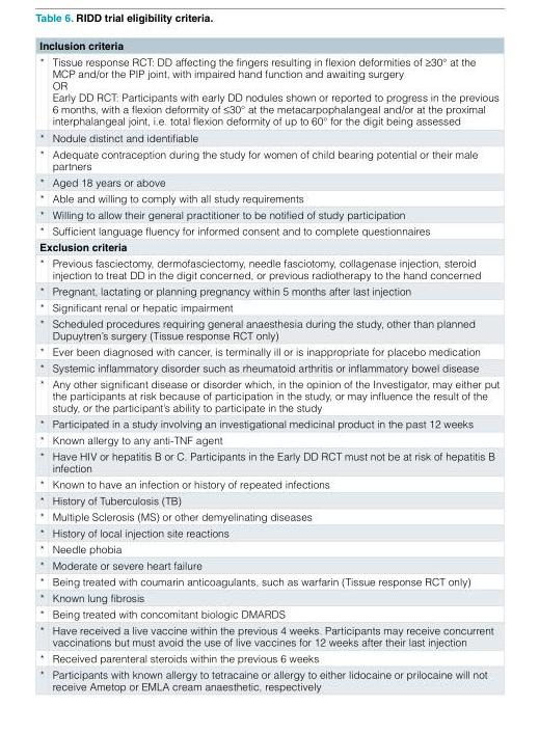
<table><thead><tr><td colspan="2">Inclusion criteria</td></tr><tr><td>*</td><td>Tissue response RCT: DD affecting the fingers resulting in flexion deformities of ≥30° at the MCP and/or the PIP joint, with impaired hand function and awaiting surgery OR Early DD RCT: Participants with early DD nodules shown or reported to progress in the previous 6 months, with a flexion deformity of ≤30° at the metacarpophalangeal and/or at the proximal interphalangeal joint, i.e. total flexion deformity of up to 60° for the digit being assessed</td></tr></thead><tbody><tr><td>*</td><td>Nodule distinct and identifiable</td></tr><tr><td>*</td><td>Adequate contraception during the study for women of child bearing potential or their male partners</td></tr><tr><td>*</td><td>Aged 18 years or above</td></tr><tr><td>*</td><td>Able and willing to comply with all study requirements</td></tr><tr><td>*</td><td>Willing to allow their general practitioner to be notified of study participation</td></tr><tr><td>*</td><td>Sufficient language fluency for informed consent and to complete questionnaires</td></tr><tr><td colspan="2">Exclusion criteria</td></tr><tr><td>*</td><td>Previous fasciectomy, dermofasciectomy, needle fasciotomy, collagenase injection, steroid injection to treat DD in the digit concerned, or previous radiotherapy to the hand concerned</td></tr><tr><td>*</td><td>Pregnant, lactating or planning pregnancy within 5 months after last injection</td></tr><tr><td>*</td><td>Significant renal or hepatic impairment</td></tr><tr><td>*</td><td>Scheduled procedures requiring general anaesthesia during the study, other than planned Dupuytren’s surgery (Tissue response RCT only)</td></tr><tr><td>*</td><td>Ever been diagnosed with cancer, is terminally ill or is inappropriate for placebo medication</td></tr><tr><td>*</td><td>Systemic inflammatory disorder such as rheumatoid arthritis or inflammatory bowel disease</td></tr><tr><td>*</td><td>Any other significant disease or disorder which, in the opinion of the Investigator, may either put the participants at risk because of participation in the study, or may influence the result of the study, or the participant’s ability to participate in the study</td></tr><tr><td>*</td><td>Participated in a study involving an investigational medicinal product in the past 12 weeks</td></tr><tr><td>*</td><td>Known allergy to any anti-TNF agent</td></tr><tr><td>*</td><td>Have HIV or hepatitis B or C. Participants in the Early DD RCT must not be at risk of hepatitis B infection</td></tr><tr><td>*</td><td>Known to have an infection or history of repeated infections</td></tr><tr><td>*</td><td>History of Tuberculosis (TB)</td></tr><tr><td>*</td><td>Multiple Sclerosis (MS) or other demyelinating diseases</td></tr><tr><td>*</td><td>History of local injection site reactions</td></tr><tr><td>*</td><td>Needle phobia</td></tr><tr><td>*</td><td>Moderate or severe heart failure</td></tr><tr><td>*</td><td>Being treated with coumarin anticoagulants, such as warfarin (Tissue response RCT only)</td></tr><tr><td>*</td><td>Known lung fibrosis</td></tr><tr><td>*</td><td>Being treated with concomitant biologic DMARDS</td></tr><tr><td>*</td><td>Have received a live vaccine within the previous 4 weeks. Participants may receive concurrent vaccinations but must avoid the use of live vaccines for 12 weeks after their last injection</td></tr><tr><td>*</td><td>Received parenteral steroids within the previous 6 weeks</td></tr><tr><td>*</td><td>Participants with known allergy to tetracaine or allergy to either lidocaine or prilocaine will not receive Ametop or EMLA cream anaesthetic, respectively</td></tr></tbody></table>